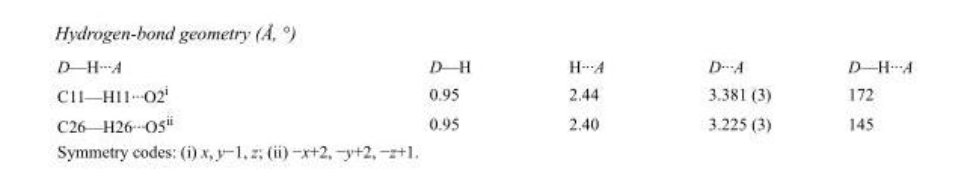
<table><tbody><tr><td>D—H···A</td><td>D—H</td><td>H···A</td><td>D···A</td><td>D—H···A</td></tr><tr><td>C11—H11···O2<sup>i</sup></td><td>0.95</td><td>2.44</td><td>3.381 (3)</td><td>172</td></tr><tr><td>C26—H26···O5<sup>ii</sup></td><td>0.95</td><td>2.40</td><td>3.225 (3)</td><td>145</td></tr></tbody></table>